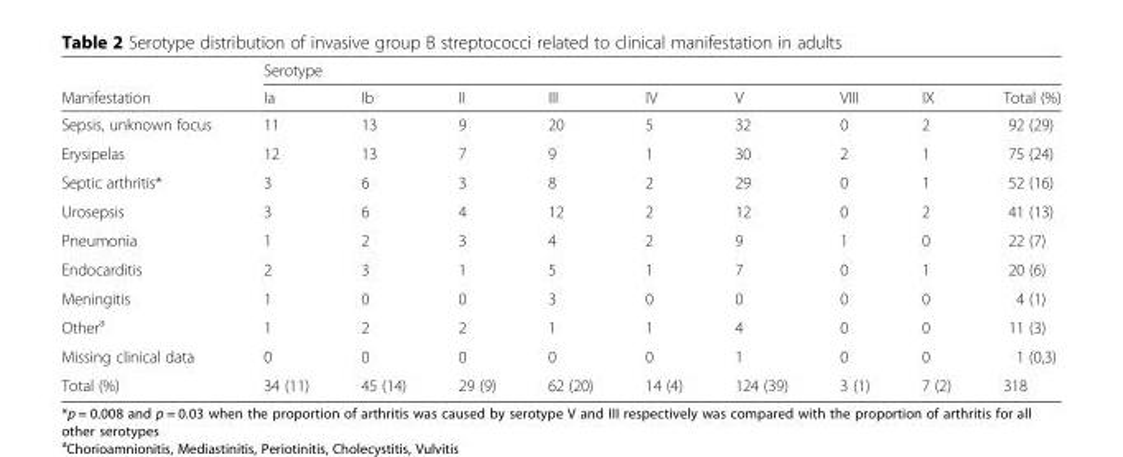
<table><thead><tr><td rowspan="2">Manifestation</td><td colspan="9">Serotype</td></tr><tr><td>Ia</td><td>Ib</td><td>II</td><td>III</td><td>IV</td><td>V</td><td>VIII</td><td>IX</td><td>Total (%)</td></tr></thead><tbody><tr><td>Sepsis, unknown focus</td><td>11</td><td>13</td><td>9</td><td>20</td><td>5</td><td>32</td><td>0</td><td>2</td><td>92 (29)</td></tr><tr><td>Erysipelas</td><td>12</td><td>13</td><td>7</td><td>9</td><td>1</td><td>30</td><td>2</td><td>1</td><td>75 (24)</td></tr><tr><td>Septic arthritis*</td><td>3</td><td>6</td><td>3</td><td>8</td><td>2</td><td>29</td><td>0</td><td>1</td><td>52 (16)</td></tr><tr><td>Urosepsis</td><td>3</td><td>6</td><td>4</td><td>12</td><td>2</td><td>12</td><td>0</td><td>2</td><td>41 (13)</td></tr><tr><td>Pneumonia</td><td>1</td><td>2</td><td>3</td><td>4</td><td>2</td><td>9</td><td>1</td><td>0</td><td>22 (7)</td></tr><tr><td>Endocarditis</td><td>2</td><td>3</td><td>1</td><td>5</td><td>1</td><td>7</td><td>0</td><td>1</td><td>20 (6)</td></tr><tr><td>Meningitis</td><td>1</td><td>0</td><td>0</td><td>3</td><td>0</td><td>0</td><td>0</td><td>0</td><td>4 (1)</td></tr><tr><td>Other<sup>a</sup></td><td>1</td><td>2</td><td>2</td><td>1</td><td>1</td><td>4</td><td>0</td><td>0</td><td>11 (3)</td></tr><tr><td>Missing clinical data</td><td>0</td><td>0</td><td>0</td><td>0</td><td>0</td><td>1</td><td>0</td><td>0</td><td>1 (0,3)</td></tr><tr><td>Total (%)</td><td>34 (11)</td><td>45 (14)</td><td>29 (9)</td><td>62 (20)</td><td>14 (4)</td><td>124 (39)</td><td>3 (1)</td><td>7 (2)</td><td>318</td></tr></tbody></table>